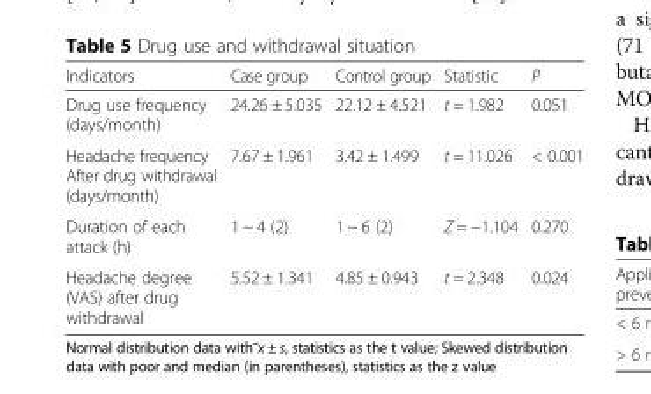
<table><thead><tr><td>Indicators</td><td>Case group</td><td>Control group</td><td>Statistic</td><td>P</td></tr></thead><tbody><tr><td>Drug use frequency (days/month)</td><td>24.26 ± 5.035</td><td>22.12 ± 4.521</td><td>t = 1.982</td><td>0.051</td></tr><tr><td>Headache frequency After drug withdrawal (days/month)</td><td>7.67 ± 1.961</td><td>3.42 ± 1.499</td><td>t = 11.026</td><td>&lt; 0.001</td></tr><tr><td>Duration of each attack (h)</td><td>1 ~ 4 (2)</td><td>1 ~ 6 (2)</td><td>Z = −1.104</td><td>0.270</td></tr><tr><td>Headache degree (VAS) after drug withdrawal</td><td>5.52 ± 1.341</td><td>4.85 ± 0.943</td><td>t = 2.348</td><td>0.024</td></tr></tbody></table>